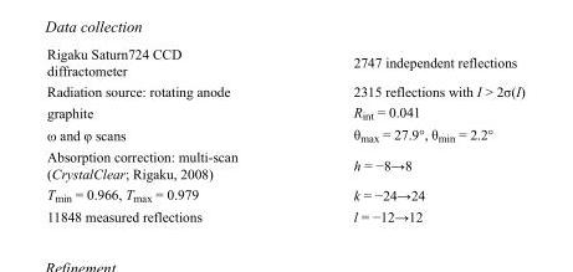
<table><tbody><tr><td>Rigaku Saturn724 CCD diffractometer</td><td>2747 independent reflections</td></tr><tr><td>Radiation source: rotating anode</td><td>2315 reflections with I &gt; 2σ(I)</td></tr><tr><td>graphite</td><td>R<sub>int</sub> = 0.041</td></tr><tr><td>ω and φ scans</td><td>θ<sub>max</sub> = 27.9°, θ<sub>min</sub> = 2.2°</td></tr><tr><td>Absorption correction: multi-scan (CrystalClear; Rigaku, 2008)</td><td>h = −8→8</td></tr><tr><td>T<sub>min</sub> = 0.966, T<sub>max</sub> = 0.979</td><td>k = −24→24</td></tr><tr><td>11848 measured reflections</td><td>l = −12→12</td></tr></tbody></table>